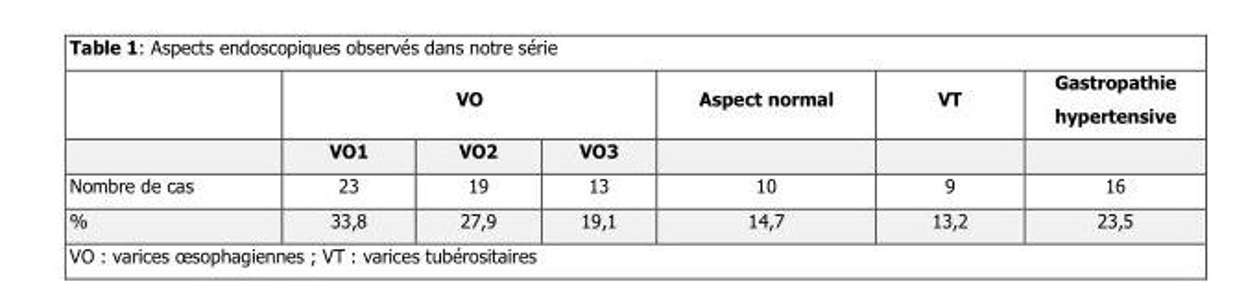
<table><thead><tr><td rowspan="2"></td><td colspan="3">VO</td><td rowspan="2">Aspect normal</td><td rowspan="2">VT</td><td rowspan="2">Gastropathie hypertensive</td></tr><tr><td>VO1</td><td>VO2</td><td>VO3</td></tr></thead><tbody><tr><td>Nombre de cas</td><td>23</td><td>19</td><td>13</td><td>10</td><td>9</td><td>16</td></tr><tr><td>%</td><td>33,8</td><td>27,9</td><td>19,1</td><td>14,7</td><td>13,2</td><td>23,5</td></tr></tbody></table>